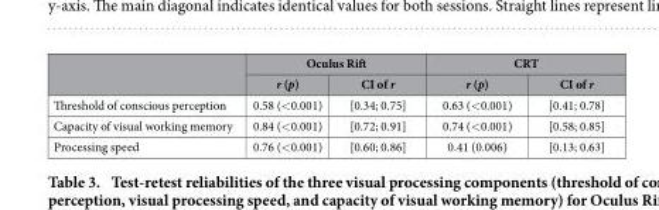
<table><thead><tr><td rowspan="2"></td><td colspan="2">Oculus Rift</td><td colspan="2">CRT</td></tr><tr><td>r (p)</td><td>CI of r</td><td>r (p)</td><td>CI of r</td></tr></thead><tbody><tr><td>Threshold of conscious perception</td><td>0.58 (&lt; 0.001)</td><td>[0.34; 0.75]</td><td>0.63 (&lt; 0.001)</td><td>[0.41; 0.78]</td></tr><tr><td>Capacity of visual working memory</td><td>0.84 (&lt; 0.001)</td><td>[0.72; 0.91]</td><td>0.74 (&lt; 0.001)</td><td>[0.58; 0.85]</td></tr><tr><td>Processing speed</td><td>0.76 (&lt; 0.001)</td><td>[0.60; 0.86]</td><td>0.41 (0.006)</td><td>[0.13; 0.63]</td></tr></tbody></table>